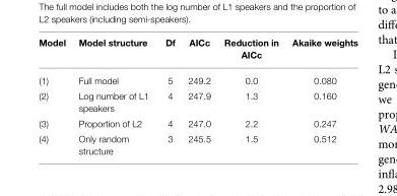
<table><thead><tr><td>Model</td><td>Model structure</td><td>Df</td><td>AICc</td><td>Reduction in AICc</td><td>Akaike weights</td></tr></thead><tbody><tr><td>(1)</td><td>Full model</td><td>5</td><td>249.2</td><td>0.0</td><td>0.080</td></tr><tr><td>(2)</td><td>Log number of L1 speakers</td><td>4</td><td>247.9</td><td>1.3</td><td>0.160</td></tr><tr><td>(3)</td><td>Proportion of L2</td><td>4</td><td>247.0</td><td>2.2</td><td>0.247</td></tr><tr><td>(4)</td><td>Only random structure</td><td>3</td><td>245.5</td><td>1.5</td><td>0.512</td></tr></tbody></table>